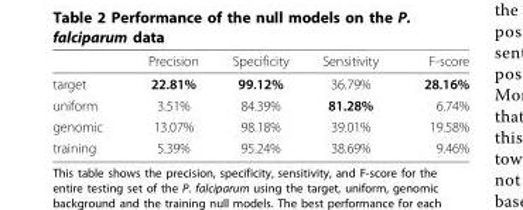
<table><thead><tr><td></td><td>Precision</td><td>Specificity</td><td>Sensitivity</td><td>F-score</td></tr></thead><tbody><tr><td>target</td><td>22.81%</td><td>99.12%</td><td>36.79%</td><td>28.16%</td></tr><tr><td>uniform</td><td>3.51%</td><td>84.39%</td><td>81.28%</td><td>6.74%</td></tr><tr><td>genomic</td><td>13.07%</td><td>98.18%</td><td>39.01%</td><td>19.58%</td></tr><tr><td>training</td><td>5.39%</td><td>95.24%</td><td>38.69%</td><td>9.46%</td></tr></tbody></table>